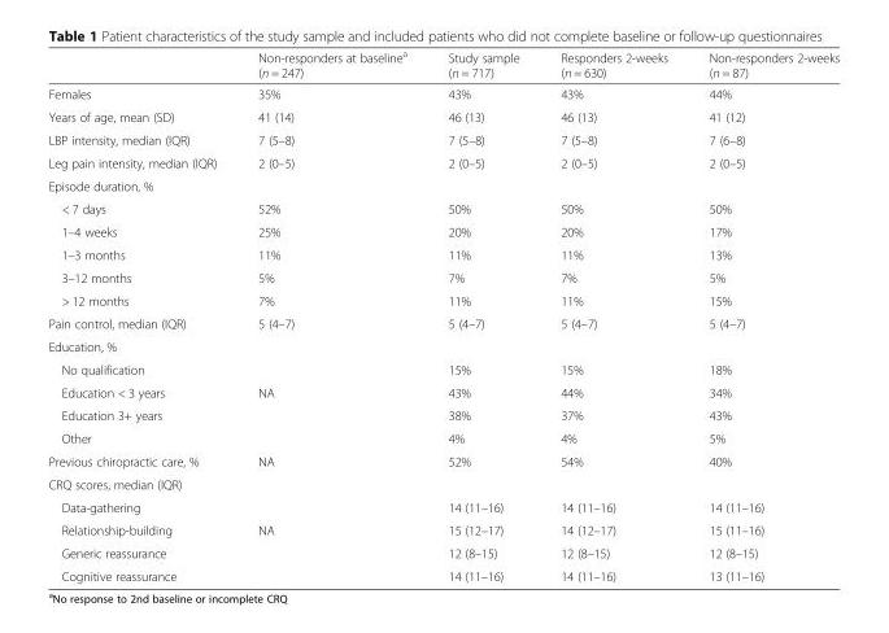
<table><thead><tr><td></td><td>Non-responders at baseline<sup>a</sup> (n = 247)</td><td>Study sample (n = 717)</td><td>Responders 2-weeks (n = 630)</td><td>Non-responders 2-weeks (n = 87)</td></tr></thead><tbody><tr><td>Females</td><td>35%</td><td>43%</td><td>43%</td><td>44%</td></tr><tr><td>Years of age, mean (SD)</td><td>41 (14)</td><td>46 (13)</td><td>46 (13)</td><td>41 (12)</td></tr><tr><td>LBP intensity, median (IQR)</td><td>7 (5–8)</td><td>7 (5–8)</td><td>7 (5–8)</td><td>7 (6–8)</td></tr><tr><td>Leg pain intensity, median (IQR)</td><td>2 (0–5)</td><td>2 (0–5)</td><td>2 (0–5)</td><td>2 (0–5)</td></tr><tr><td colspan="5">Episode duration, %</td></tr><tr><td>&lt; 7 days</td><td>52%</td><td>50%</td><td>50%</td><td>50%</td></tr><tr><td>1–4 weeks</td><td>25%</td><td>20%</td><td>20%</td><td>17%</td></tr><tr><td>1–3 months</td><td>11%</td><td>11%</td><td>11%</td><td>13%</td></tr><tr><td>3–12 months</td><td>5%</td><td>7%</td><td>7%</td><td>5%</td></tr><tr><td>&gt; 12 months</td><td>7%</td><td>11%</td><td>11%</td><td>15%</td></tr><tr><td>Pain control, median (IQR)</td><td>5 (4–7)</td><td>5 (4–7)</td><td>5 (4–7)</td><td>5 (4–7)</td></tr><tr><td colspan="5">Education, %</td></tr><tr><td>No qualification</td><td></td><td>15%</td><td>15%</td><td>18%</td></tr><tr><td>Education &lt; 3 years</td><td>NA</td><td>43%</td><td>44%</td><td>34%</td></tr><tr><td>Education 3+ years</td><td></td><td>38%</td><td>37%</td><td>43%</td></tr><tr><td>Other</td><td></td><td>4%</td><td>4%</td><td>5%</td></tr><tr><td>Previous chiropractic care, %</td><td>NA</td><td>52%</td><td>54%</td><td>40%</td></tr><tr><td colspan="5">CRQ scores, median (IQR)</td></tr><tr><td>Data-gathering</td><td></td><td>14 (11–16)</td><td>14 (11–16)</td><td>14 (11–16)</td></tr><tr><td>Relationship-building</td><td>NA</td><td>15 (12–17)</td><td>14 (12–17)</td><td>15 (11–16)</td></tr><tr><td>Generic reassurance</td><td></td><td>12 (8–15)</td><td>12 (8–15)</td><td>12 (8–15)</td></tr><tr><td>Cognitive reassurance</td><td></td><td>14 (11–16)</td><td>14 (11–16)</td><td>13 (11–16)</td></tr></tbody></table>